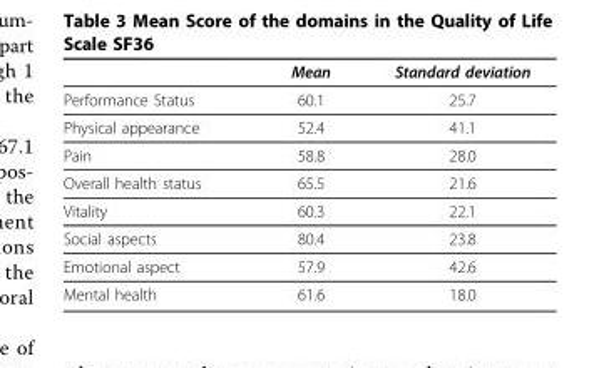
<table><thead><tr><td></td><td>Mean</td><td>Standard deviation</td></tr></thead><tbody><tr><td>Performance Status</td><td>60.1</td><td>25.7</td></tr><tr><td>Physical appearance</td><td>52.4</td><td>41.1</td></tr><tr><td>Pain</td><td>58.8</td><td>28.0</td></tr><tr><td>Overall health status</td><td>65.5</td><td>21.6</td></tr><tr><td>Vitality</td><td>60.3</td><td>22.1</td></tr><tr><td>Social aspects</td><td>80.4</td><td>23.8</td></tr><tr><td>Emotional aspect</td><td>57.9</td><td>42.6</td></tr><tr><td>Mental health</td><td>61.6</td><td>18.0</td></tr></tbody></table>